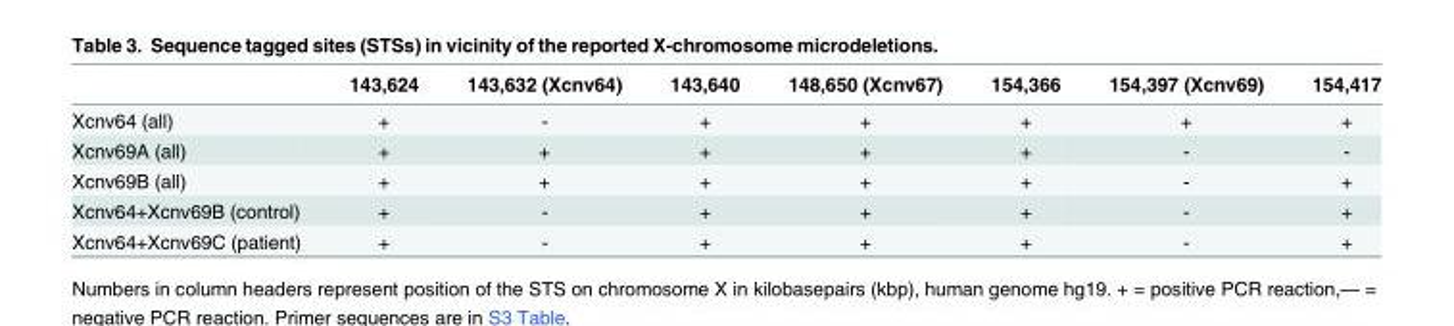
<table><thead><tr><td></td><td>143,624</td><td>143,632 (Xcnv64)</td><td>143,640</td><td>148,650 (Xcnv67)</td><td>154,366</td><td>154,397 (Xcnv69)</td><td>154,417</td></tr></thead><tbody><tr><td>Xcnv64 (all)</td><td>+</td><td>-</td><td>+</td><td>+</td><td>+</td><td>+</td><td>+</td></tr><tr><td>Xcnv69A (all)</td><td>+</td><td>+</td><td>+</td><td>+</td><td>+</td><td>-</td><td>-</td></tr><tr><td>Xcnv69B (all)</td><td>+</td><td>+</td><td>+</td><td>+</td><td>+</td><td>-</td><td>+</td></tr><tr><td>Xcnv64+Xcnv69B (control)</td><td>+</td><td>-</td><td>+</td><td>+</td><td>+</td><td>-</td><td>+</td></tr><tr><td>Xcnv64+Xcnv69C (patient)</td><td>+</td><td>-</td><td>+</td><td>+</td><td>+</td><td>-</td><td>+</td></tr></tbody></table>